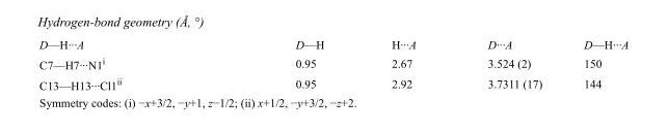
<table><tbody><tr><td>D—H···A</td><td>D—H</td><td>H···A</td><td>D···A</td><td>D—H···A</td></tr><tr><td>C7—H7···N1<sup>i</sup></td><td>0.95</td><td>2.67</td><td>3.524 (2)</td><td>150</td></tr><tr><td>C13—H13···Cl1<sup>ii</sup></td><td>0.95</td><td>2.92</td><td>3.7311 (17)</td><td>144</td></tr></tbody></table>